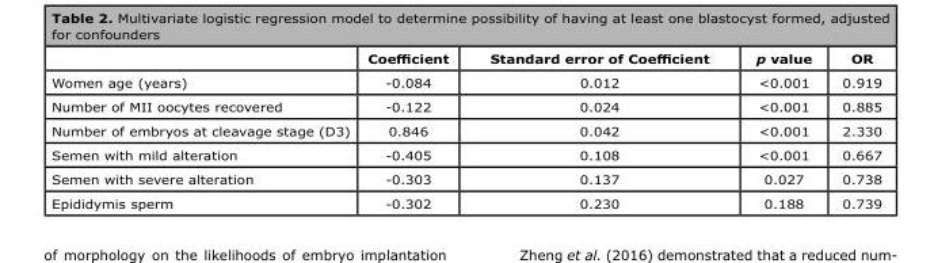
<table><thead><tr><td></td><td>Coefficient</td><td>Standard error of Coefficient</td><td>p value</td><td>OR</td></tr></thead><tbody><tr><td>Women age (years)</td><td>-0.084</td><td>0.012</td><td>&lt;0.001</td><td>0.919</td></tr><tr><td>Number of MII oocytes recovered</td><td>-0.122</td><td>0.024</td><td>&lt;0.001</td><td>0.885</td></tr><tr><td>Number of embryos at cleavage stage (D3)</td><td>0.846</td><td>0.042</td><td>&lt;0.001</td><td>2.330</td></tr><tr><td>Semen with mild alteration</td><td>-0.405</td><td>0.108</td><td>&lt;0.001</td><td>0.667</td></tr><tr><td>Semen with severe alteration</td><td>-0.303</td><td>0.137</td><td>0.027</td><td>0.738</td></tr><tr><td>Epididymis sperm</td><td>-0.302</td><td>0.230</td><td>0.188</td><td>0.739</td></tr></tbody></table>